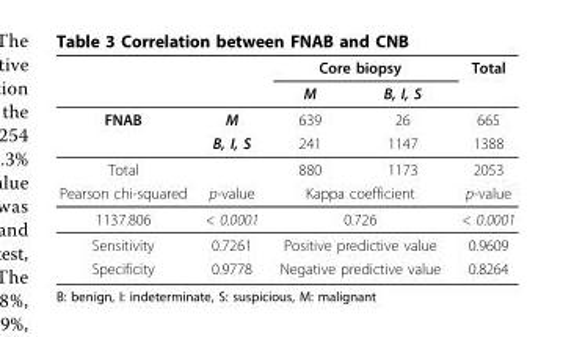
<table><thead><tr><td rowspan="2"></td><td rowspan="2"></td><td colspan="2">Core biopsy</td><td rowspan="2">Total</td></tr><tr><td>M</td><td>B, I, S</td></tr></thead><tbody><tr><td rowspan="2">FNAB</td><td>M</td><td>639</td><td>26</td><td>665</td></tr><tr><td>B, I, S</td><td>241</td><td>1147</td><td>1388</td></tr><tr><td>Total</td><td></td><td>880</td><td>1173</td><td>2053</td></tr><tr><td>Pearson chi-squared</td><td>p-value</td><td colspan="2">Kappa coefficient</td><td>p-value</td></tr><tr><td>1137.806</td><td>&lt; 0.0001</td><td colspan="2">0.726</td><td>&lt; 0.0001</td></tr><tr><td>Sensitivity</td><td>0.7261</td><td colspan="2">Positive predictive value</td><td>0.9609</td></tr><tr><td>Specificity</td><td>0.9778</td><td colspan="2">Negative predictive value</td><td>0.8264</td></tr></tbody></table>